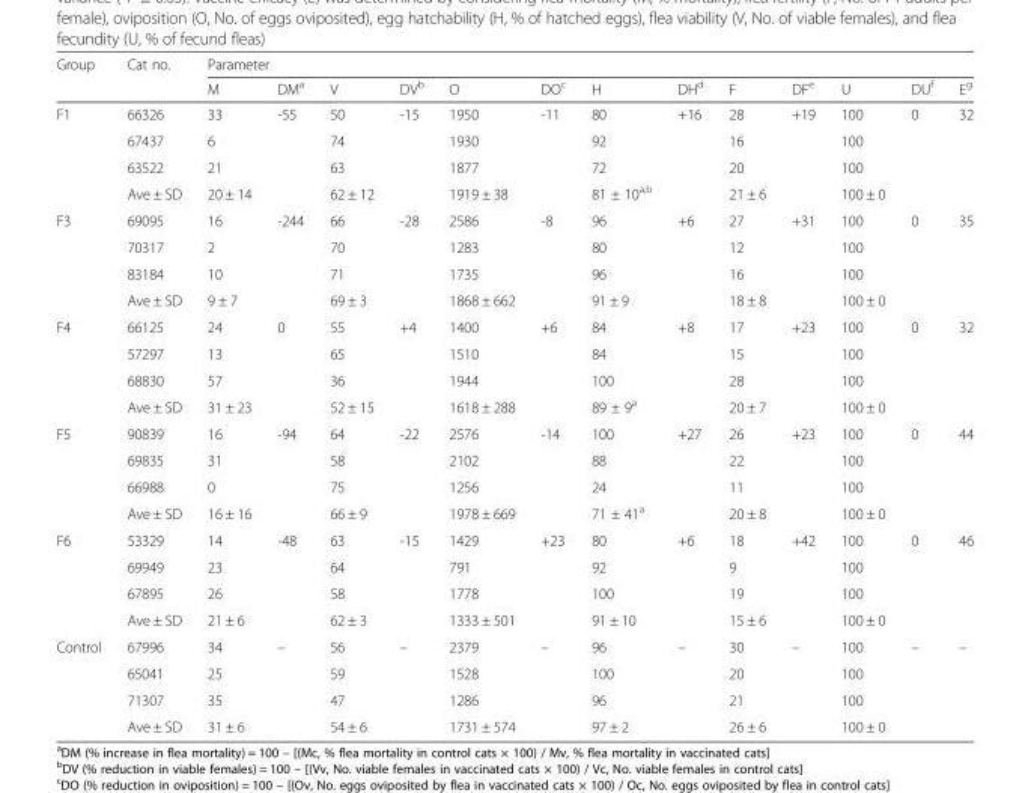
<table><thead><tr><td rowspan="2">Group</td><td rowspan="2">Cat no.</td><td colspan="13">Parameter</td></tr><tr><td>M</td><td>DM<sup>a</sup></td><td>V</td><td>DV<sup>b</sup></td><td>O</td><td>DO<sup>c</sup></td><td>H</td><td>DH<sup>d</sup></td><td>F</td><td>DF<sup>e</sup></td><td>U</td><td>DU<sup>f</sup></td><td>E<sup>g</sup></td></tr></thead><tbody><tr><td rowspan="4">F1</td><td>66326</td><td>33</td><td rowspan="4">-55</td><td>50</td><td rowspan="4">-15</td><td>1950</td><td rowspan="4">-11</td><td>80</td><td rowspan="4">+16</td><td>28</td><td rowspan="4">+19</td><td>100</td><td rowspan="4">0</td><td rowspan="4">32</td></tr><tr><td>67437</td><td>6</td><td>74</td><td>1930</td><td>92</td><td>16</td><td>100</td></tr><tr><td>63522</td><td>21</td><td>63</td><td>1877</td><td>72</td><td>20</td><td>100</td></tr><tr><td>Ave ± SD</td><td>20 ± 14</td><td>62 ± 12</td><td>1919 ± 38</td><td>81 ± 10<sup>a,b</sup></td><td>21 ± 6</td><td>100 ± 0</td></tr><tr><td rowspan="4">F3</td><td>69095</td><td>16</td><td rowspan="4">-244</td><td>66</td><td rowspan="4">-28</td><td>2586</td><td rowspan="4">-8</td><td>96</td><td rowspan="4">+6</td><td>27</td><td rowspan="4">+31</td><td>100</td><td rowspan="4">0</td><td rowspan="4">35</td></tr><tr><td>70317</td><td>2</td><td>70</td><td>1283</td><td>80</td><td>12</td><td>100</td></tr><tr><td>83184</td><td>10</td><td>71</td><td>1735</td><td>96</td><td>16</td><td>100</td></tr><tr><td>Ave ± SD</td><td>9 ± 7</td><td>69 ± 3</td><td>1868 ± 662</td><td>91 ± 9</td><td>18 ± 8</td><td>100 ± 0</td></tr><tr><td rowspan="4">F4</td><td>66125</td><td>24</td><td rowspan="4">0</td><td>55</td><td rowspan="4">+4</td><td>1400</td><td rowspan="4">+6</td><td>84</td><td rowspan="4">+8</td><td>17</td><td rowspan="4">+23</td><td>100</td><td rowspan="4">0</td><td rowspan="4">32</td></tr><tr><td>57297</td><td>13</td><td>65</td><td>1510</td><td>84</td><td>15</td><td>100</td></tr><tr><td>68830</td><td>57</td><td>36</td><td>1944</td><td>100</td><td>28</td><td>100</td></tr><tr><td>Ave ± SD</td><td>31 ± 23</td><td>52 ± 15</td><td>1618 ± 288</td><td>89 ± 9<sup>a</sup></td><td>20 ± 7</td><td>100 ± 0</td></tr><tr><td rowspan="4">F5</td><td>90839</td><td>16</td><td rowspan="4">-94</td><td>64</td><td rowspan="4">-22</td><td>2576</td><td rowspan="4">-14</td><td>100</td><td rowspan="4">+27</td><td>26</td><td rowspan="4">+23</td><td>100</td><td rowspan="4">0</td><td rowspan="4">44</td></tr><tr><td>69835</td><td>31</td><td>58</td><td>2102</td><td>88</td><td>22</td><td>100</td></tr><tr><td>66988</td><td>0</td><td>75</td><td>1256</td><td>24</td><td>11</td><td>100</td></tr><tr><td>Ave ± SD</td><td>16 ± 16</td><td>66 ± 9</td><td>1978 ± 669</td><td>71 ± 41<sup>a</sup></td><td>20 ± 8</td><td>100 ± 0</td></tr><tr><td rowspan="4">F6</td><td>53329</td><td>14</td><td rowspan="4">-48</td><td>63</td><td rowspan="4">-15</td><td>1429</td><td rowspan="4">+23</td><td>80</td><td rowspan="4">+6</td><td>18</td><td rowspan="4">+42</td><td>100</td><td rowspan="4">0</td><td rowspan="4">46</td></tr><tr><td>69949</td><td>23</td><td>64</td><td>791</td><td>92</td><td>9</td><td>100</td></tr><tr><td>67895</td><td>26</td><td>58</td><td>1778</td><td>100</td><td>19</td><td>100</td></tr><tr><td>Ave ± SD</td><td>21 ± 6</td><td>62 ± 3</td><td>1333 ± 501</td><td>91 ± 10</td><td>15 ± 6</td><td>100 ± 0</td></tr><tr><td rowspan="4">Control</td><td>67996</td><td>34</td><td rowspan="4">–</td><td>56</td><td rowspan="4">–</td><td>2379</td><td rowspan="4">–</td><td>96</td><td rowspan="4">–</td><td>30</td><td rowspan="4">–</td><td>100</td><td rowspan="4">–</td><td rowspan="4">–</td></tr><tr><td>65041</td><td>25</td><td>59</td><td>1528</td><td>100</td><td>20</td><td>100</td></tr><tr><td>71307</td><td>35</td><td>47</td><td>1286</td><td>96</td><td>21</td><td>100</td></tr><tr><td>Ave ± SD</td><td>31 ± 6</td><td>54 ± 6</td><td>1731 ± 574</td><td>97 ± 2</td><td>26 ± 6</td><td>100 ± 0</td></tr></tbody></table>